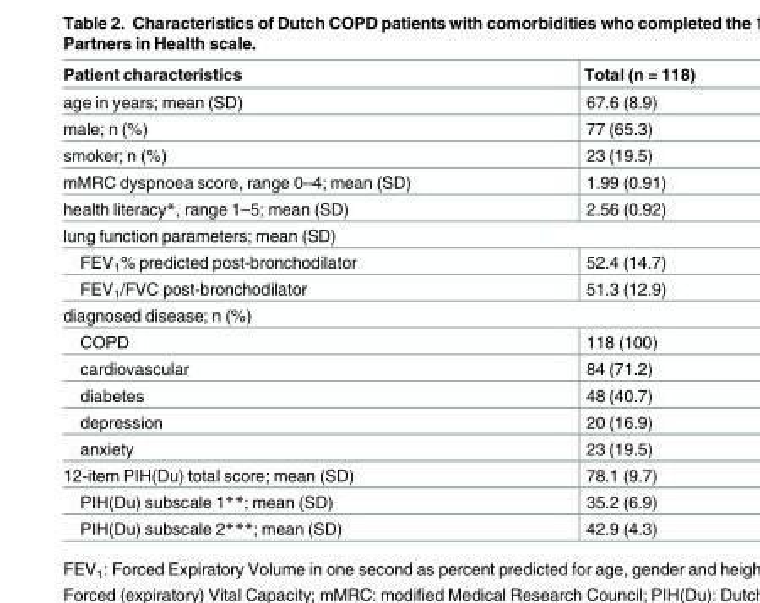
<table><thead><tr><td>Patient characteristics</td><td>Total (n = 118)</td></tr></thead><tbody><tr><td>age in years; mean (SD)</td><td>67.6 (8.9)</td></tr><tr><td>male; n (%)</td><td>77 (65.3)</td></tr><tr><td>smoker; n (%)</td><td>23 (19.5)</td></tr><tr><td>mMRC dyspnoea score, range 0–4; mean (SD)</td><td>1.99 (0.91)</td></tr><tr><td>health literacy*, range 1–5; mean (SD)</td><td>2.56 (0.92)</td></tr><tr><td colspan="2">lung function parameters; mean (SD)</td></tr><tr><td>FEV<sub>1</sub>% predicted post-bronchodilator</td><td>52.4 (14.7)</td></tr><tr><td>FEV<sub>1</sub>/FVC post-bronchodilator</td><td>51.3 (12.9)</td></tr><tr><td colspan="2">diagnosed disease; n (%)</td></tr><tr><td>COPD</td><td>118 (100)</td></tr><tr><td>cardiovascular</td><td>84 (71.2)</td></tr><tr><td>diabetes</td><td>48 (40.7)</td></tr><tr><td>depression</td><td>20 (16.9)</td></tr><tr><td>anxiety</td><td>23 (19.5)</td></tr><tr><td>12-item PIH(Du) total score; mean (SD)</td><td>78.1 (9.7)</td></tr><tr><td>PIH(Du) subscale 1**; mean (SD)</td><td>35.2 (6.9)</td></tr><tr><td>PIH(Du) subscale 2***; mean (SD)</td><td>42.9 (4.3)</td></tr></tbody></table>